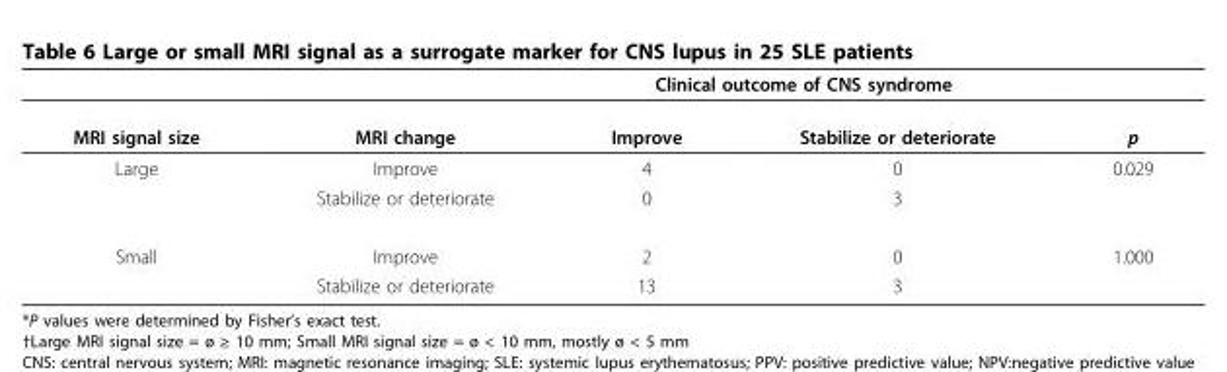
<table><thead><tr><td rowspan="2">MRI signal size</td><td rowspan="2">MRI change</td><td colspan="2">Clinical outcome of CNS syndrome</td><td rowspan="2">p</td></tr><tr><td>Improve</td><td>Stabilize or deteriorate</td></tr></thead><tbody><tr><td rowspan="2">Large</td><td>Improve</td><td>4</td><td>0</td><td>0.029</td></tr><tr><td>Stabilize or deteriorate</td><td>0</td><td>3</td><td></td></tr><tr><td rowspan="2">Small</td><td>Improve</td><td>2</td><td>0</td><td>1.000</td></tr><tr><td>Stabilize or deteriorate</td><td>13</td><td>3</td><td></td></tr></tbody></table>